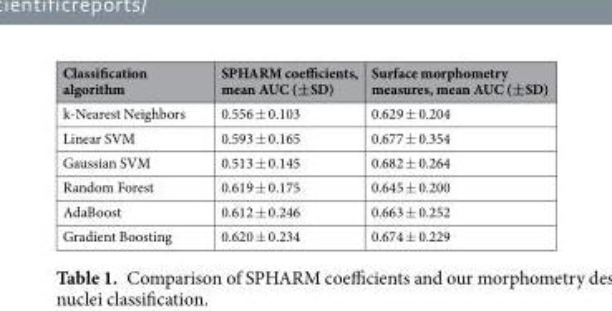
<table><thead><tr><td>Classification algorithm</td><td>SPHARM coefficients, mean AUC (±SD)</td><td>Surface morphometry measures, mean AUC (±SD)</td></tr></thead><tbody><tr><td>k-Nearest Neighbors</td><td>0.556 ± 0.103</td><td>0.629 ± 0.204</td></tr><tr><td>Linear SVM</td><td>0.593 ± 0.165</td><td>0.677 ± 0.354</td></tr><tr><td>Gaussian SVM</td><td>0.513 ± 0.145</td><td>0.682 ± 0.264</td></tr><tr><td>Random Forest</td><td>0.619 ± 0.175</td><td>0.645 ± 0.200</td></tr><tr><td>AdaBoost</td><td>0.612 ± 0.246</td><td>0.663 ± 0.252</td></tr><tr><td>Gradient Boosting</td><td>0.620 ± 0.234</td><td>0.674 ± 0.229</td></tr></tbody></table>